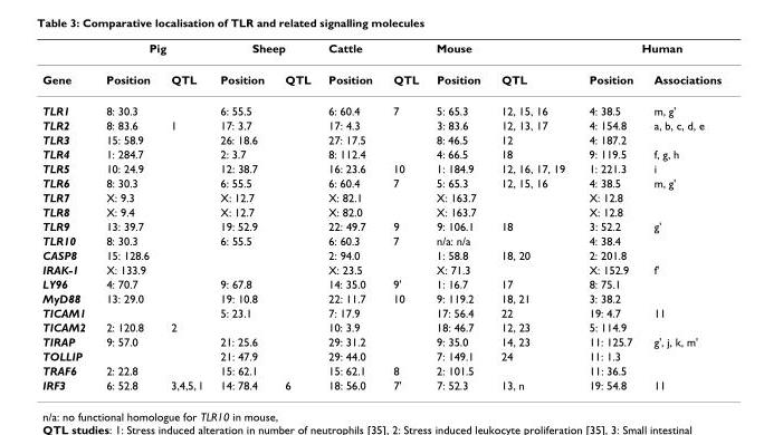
<table><thead><tr><td rowspan="2">Gene</td><td colspan="2">Pig</td><td colspan="2">Sheep</td><td colspan="2">Cattle</td><td colspan="2">Mouse</td><td colspan="2">Human</td></tr><tr><td>Position</td><td>QTL</td><td>Position</td><td>QTL</td><td>Position</td><td>QTL</td><td>Position</td><td>QTL</td><td>Position</td><td>Associations</td></tr></thead><tbody><tr><td>TLR1</td><td>8: 30.3</td><td></td><td>6: 55.5</td><td></td><td>6: 60.4</td><td>7</td><td>5: 65.3</td><td>12, 15, 16</td><td>4: 38.5</td><td>m, g&#x27;</td></tr><tr><td>TLR2</td><td>8: 83.6</td><td>1</td><td>17: 3.7</td><td></td><td>17: 4.3</td><td></td><td>3: 83.6</td><td>12, 13, 17</td><td>4: 154.8</td><td>a, b, c, d, e</td></tr><tr><td>TLR3</td><td>15: 58.9</td><td></td><td>26: 18.6</td><td></td><td>27: 17.5</td><td></td><td>8: 46.5</td><td>12</td><td>4: 187.2</td><td></td></tr><tr><td>TLR4</td><td>1: 284.7</td><td></td><td>2: 3.7</td><td></td><td>8: 112.4</td><td></td><td>4: 66.5</td><td>18</td><td>9: 119.5</td><td>f, g, h</td></tr><tr><td>TLR5</td><td>10: 24.9</td><td></td><td>12: 38.7</td><td></td><td>16: 23.6</td><td>10</td><td>1: 184.9</td><td>12, 16, 17, 19</td><td>1: 221.3</td><td>i</td></tr><tr><td>TLR6</td><td>8: 30.3</td><td></td><td>6: 55.5</td><td></td><td>6: 60.4</td><td>7</td><td>5: 65.3</td><td>12, 15, 16</td><td>4: 38.5</td><td>m, g&#x27;</td></tr><tr><td>TLR7</td><td>X: 9.3</td><td></td><td>X: 12.7</td><td></td><td>X: 82.1</td><td></td><td>X: 163.7</td><td></td><td>X: 12.8</td><td></td></tr><tr><td>TLR8</td><td>X: 9.4</td><td></td><td>X: 12.7</td><td></td><td>X: 82.0</td><td></td><td>X: 163.7</td><td></td><td>X: 12.8</td><td></td></tr><tr><td>TLR9</td><td>13: 39.7</td><td></td><td>19: 52.9</td><td></td><td>22: 49.7</td><td>9</td><td>9: 106.1</td><td>18</td><td>3: 52.2</td><td>g&#x27;</td></tr><tr><td>TLR10</td><td>8: 30.3</td><td></td><td>6: 55.5</td><td></td><td>6: 60.3</td><td>7</td><td>n/a: n/a</td><td></td><td>4: 38.4</td><td></td></tr><tr><td>CASP8</td><td>15: 128.6</td><td></td><td></td><td></td><td>2: 94.0</td><td></td><td>1: 58.8</td><td>18, 20</td><td>2: 201.8</td><td></td></tr><tr><td>IRAK-1</td><td>X: 133.9</td><td></td><td></td><td></td><td>X: 23.5</td><td></td><td>X: 71.3</td><td></td><td>X: 152.9</td><td>f&#x27;</td></tr><tr><td>LY96</td><td>4: 70.7</td><td></td><td>9: 67.8</td><td></td><td>14: 35.0</td><td>9&#x27;</td><td>1: 16.7</td><td>17</td><td>8: 75.1</td><td></td></tr><tr><td>MyD88</td><td>13: 29.0</td><td></td><td>19: 10.8</td><td></td><td>22: 11.7</td><td>10</td><td>9: 119.2</td><td>18, 21</td><td>3: 38.2</td><td></td></tr><tr><td>TICAM1</td><td></td><td></td><td>5: 23.1</td><td></td><td>7: 17.9</td><td></td><td>17: 56.4</td><td>22</td><td>19: 4.7</td><td>11</td></tr><tr><td>TICAM2</td><td>2: 120.8</td><td>2</td><td></td><td></td><td>10: 3.9</td><td></td><td>18: 46.7</td><td>12, 23</td><td>5: 114.9</td><td></td></tr><tr><td>TIRAP</td><td>9: 57.0</td><td></td><td>21: 25.6</td><td></td><td>29: 31.2</td><td></td><td>9: 35.0</td><td>14, 23</td><td>11: 125.7</td><td>g&#x27;, j, k, m&#x27;</td></tr><tr><td>TOLLIP</td><td></td><td></td><td>21: 47.9</td><td></td><td>29: 44.0</td><td></td><td>7: 149.1</td><td>24</td><td>11: 1.3</td><td></td></tr><tr><td>TRAF6</td><td>2: 22.8</td><td></td><td>15: 62.1</td><td></td><td>15: 62.1</td><td>8</td><td>2: 101.5</td><td></td><td>11: 36.5</td><td></td></tr><tr><td>IRF3</td><td>6: 52.8</td><td>3,4,5, l</td><td>14: 78.4</td><td>6</td><td>18: 56.0</td><td>7&#x27;</td><td>7: 52.3</td><td>13, n</td><td>19: 54.8</td><td>11</td></tr></tbody></table>